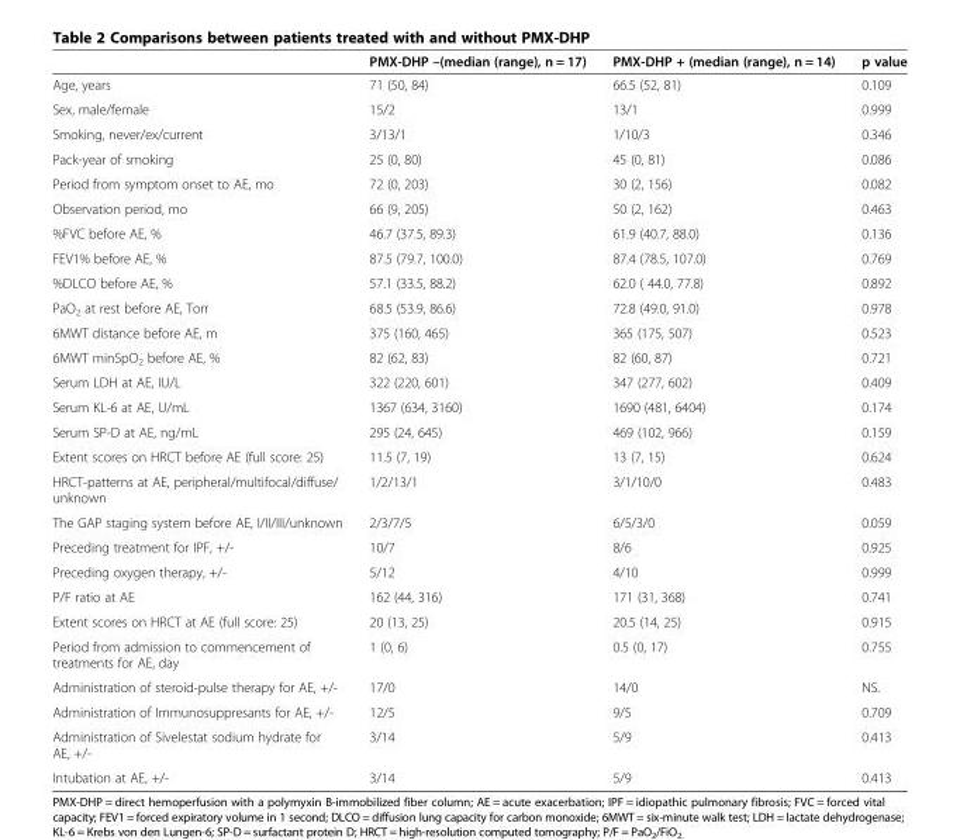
<table><thead><tr><td></td><td>PMX-DHP –(median (range), n = 17)</td><td>PMX-DHP + (median (range), n = 14)</td><td>p value</td></tr></thead><tbody><tr><td>Age, years</td><td>71 (50, 84)</td><td>66.5 (52, 81)</td><td>0.109</td></tr><tr><td>Sex, male/female</td><td>15/2</td><td>13/1</td><td>0.999</td></tr><tr><td>Smoking, never/ex/current</td><td>3/13/1</td><td>1/10/3</td><td>0.346</td></tr><tr><td>Pack-year of smoking</td><td>25 (0, 80)</td><td>45 (0, 81)</td><td>0.086</td></tr><tr><td>Period from symptom onset to AE, mo</td><td>72 (0, 203)</td><td>30 (2, 156)</td><td>0.082</td></tr><tr><td>Observation period, mo</td><td>66 (9, 205)</td><td>50 (2, 162)</td><td>0.463</td></tr><tr><td>%FVC before AE, %</td><td>46.7 (37.5, 89.3)</td><td>61.9 (40.7, 88.0)</td><td>0.136</td></tr><tr><td>FEV1% before AE, %</td><td>87.5 (79.7, 100.0)</td><td>87.4 (78.5, 107.0)</td><td>0.769</td></tr><tr><td>%DLCO before AE, %</td><td>57.1 (33.5, 88.2)</td><td>62.0 ( 44.0, 77.8)</td><td>0.892</td></tr><tr><td>PaO<sub>2</sub> at rest before AE, Torr</td><td>68.5 (53.9, 86.6)</td><td>72.8 (49.0, 91.0)</td><td>0.978</td></tr><tr><td>6MWT distance before AE, m</td><td>375 (160, 465)</td><td>365 (175, 507)</td><td>0.523</td></tr><tr><td>6MWT minSpO<sub>2</sub> before AE, %</td><td>82 (62, 83)</td><td>82 (60, 87)</td><td>0.721</td></tr><tr><td>Serum LDH at AE, IU/L</td><td>322 (220, 601)</td><td>347 (277, 602)</td><td>0.409</td></tr><tr><td>Serum KL-6 at AE, U/mL</td><td>1367 (634, 3160)</td><td>1690 (481, 6404)</td><td>0.174</td></tr><tr><td>Serum SP-D at AE, ng/mL</td><td>295 (24, 645)</td><td>469 (102, 966)</td><td>0.159</td></tr><tr><td>Extent scores on HRCT before AE (full score: 25)</td><td>11.5 (7, 19)</td><td>13 (7, 15)</td><td>0.624</td></tr><tr><td>HRCT-patterns at AE, peripheral/multifocal/diffuse/ unknown</td><td>1/2/13/1</td><td>3/1/10/0</td><td>0.483</td></tr><tr><td>The GAP staging system before AE, I/II/III/unknown</td><td>2/3/7/5</td><td>6/5/3/0</td><td>0.059</td></tr><tr><td>Preceding treatment for IPF, +/-</td><td>10/7</td><td>8/6</td><td>0.925</td></tr><tr><td>Preceding oxygen therapy, +/-</td><td>5/12</td><td>4/10</td><td>0.999</td></tr><tr><td>P/F ratio at AE</td><td>162 (44, 316)</td><td>171 (31, 368)</td><td>0.741</td></tr><tr><td>Extent scores on HRCT at AE (full score: 25)</td><td>20 (13, 25)</td><td>20.5 (14, 25)</td><td>0.915</td></tr><tr><td>Period from admission to commencement of treatments for AE, day</td><td>1 (0, 6)</td><td>0.5 (0, 17)</td><td>0.755</td></tr><tr><td>Administration of steroid-pulse therapy for AE, +/-</td><td>17/0</td><td>14/0</td><td>NS.</td></tr><tr><td>Administration of Immunosuppresants for AE, +/-</td><td>12/5</td><td>9/5</td><td>0.709</td></tr><tr><td>Administration of Sivelestat sodium hydrate for AE, +/-</td><td>3/14</td><td>5/9</td><td>0.413</td></tr><tr><td>Intubation at AE, +/-</td><td>3/14</td><td>5/9</td><td>0.413</td></tr></tbody></table>